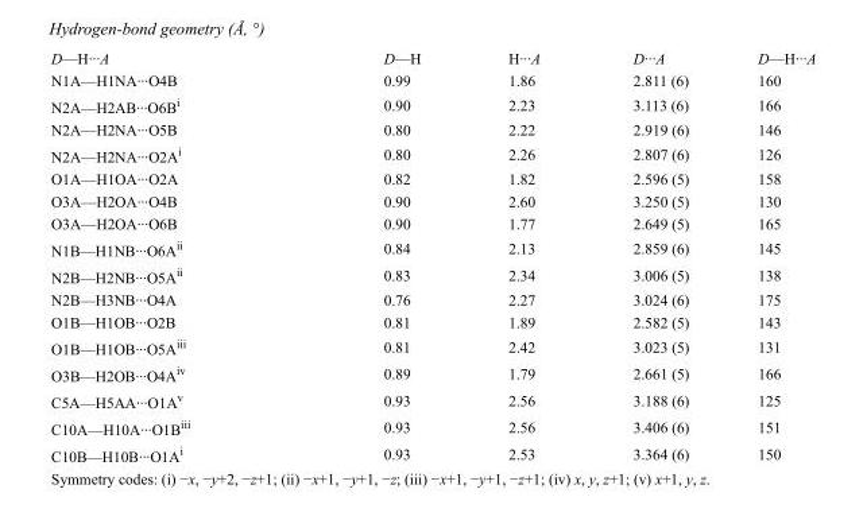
<table><tbody><tr><td>D—H···A</td><td>D—H</td><td>H···A</td><td>D···A</td><td>D—H···A</td></tr><tr><td>N1A—H1NA···O4B</td><td>0.99</td><td>1.86</td><td>2.811 (6)</td><td>160</td></tr><tr><td>N2A—H2AB···O6B<sup>i</sup></td><td>0.90</td><td>2.23</td><td>3.113 (6)</td><td>166</td></tr><tr><td>N2A—H2NA···O5B</td><td>0.80</td><td>2.22</td><td>2.919 (6)</td><td>146</td></tr><tr><td>N2A—H2NA···O2A<sup>i</sup></td><td>0.80</td><td>2.26</td><td>2.807 (6)</td><td>126</td></tr><tr><td>O1A—H1OA···O2A</td><td>0.82</td><td>1.82</td><td>2.596 (5)</td><td>158</td></tr><tr><td>O3A—H2OA···O4B</td><td>0.90</td><td>2.60</td><td>3.250 (5)</td><td>130</td></tr><tr><td>O3A—H2OA···O6B</td><td>0.90</td><td>1.77</td><td>2.649 (5)</td><td>165</td></tr><tr><td>N1B—H1NB···O6A<sup>ii</sup></td><td>0.84</td><td>2.13</td><td>2.859 (6)</td><td>145</td></tr><tr><td>N2B—H2NB···O5A<sup>ii</sup></td><td>0.83</td><td>2.34</td><td>3.006 (5)</td><td>138</td></tr><tr><td>N2B—H3NB···O4A</td><td>0.76</td><td>2.27</td><td>3.024 (6)</td><td>175</td></tr><tr><td>O1B—H1OB···O2B</td><td>0.81</td><td>1.89</td><td>2.582 (5)</td><td>143</td></tr><tr><td>O1B—H1OB···O5A<sup>iii</sup></td><td>0.81</td><td>2.42</td><td>3.023 (5)</td><td>131</td></tr><tr><td>O3B—H2OB···O4A<sup>iv</sup></td><td>0.89</td><td>1.79</td><td>2.661 (5)</td><td>166</td></tr><tr><td>C5A—H5AA···O1A<sup>v</sup></td><td>0.93</td><td>2.56</td><td>3.188 (6)</td><td>125</td></tr><tr><td>C10A—H10A···O1B<sup>iii</sup></td><td>0.93</td><td>2.56</td><td>3.406 (6)</td><td>151</td></tr><tr><td>C10B—H10B···O1A<sup>i</sup></td><td>0.93</td><td>2.53</td><td>3.364 (6)</td><td>150</td></tr></tbody></table>